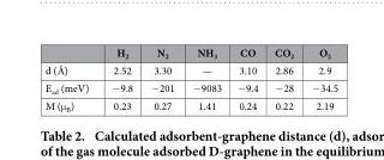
<table><thead><tr><td></td><td>H<sub>2</sub></td><td>N<sub>2</sub></td><td>NH<sub>3</sub></td><td>CO</td><td>CO<sub>2</sub></td><td>O<sub>2</sub></td></tr></thead><tbody><tr><td>d (Å)</td><td>2.52</td><td>3.30</td><td>—</td><td>3.10</td><td>2.86</td><td>2.9</td></tr><tr><td>E<sub>ad</sub> (meV)</td><td>− 9.8</td><td>− 201</td><td>− 9083</td><td>− 9.4</td><td>− 28</td><td>− 34.5</td></tr><tr><td>M (μ <sub>B</sub>)</td><td>0.23</td><td>0.27</td><td>1.41</td><td>0.24</td><td>0.22</td><td>2.19</td></tr></tbody></table>